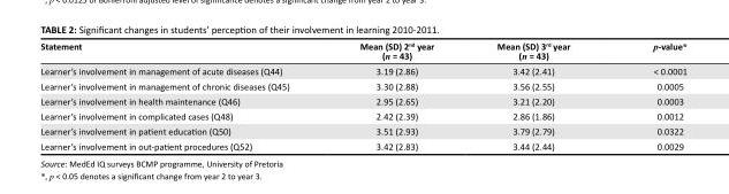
<table><thead><tr><td>Statement</td><td>Mean (SD) 2<sup>nd</sup> year (n = 43)</td><td>Mean (SD) 3<sup>rd</sup> year (n = 43)</td><td>p-value*</td></tr></thead><tbody><tr><td>Learner’s involvement in management of acute diseases (Q44)</td><td>3.19 (2.86)</td><td>3.42 (2.41)</td><td>&lt; 0.0001</td></tr><tr><td>Learner’s involvement in management of chronic diseases (Q45)</td><td>3.30 (2.88)</td><td>3.56 (2.55)</td><td>0.0005</td></tr><tr><td>Learner’s involvement in health maintenance (Q46)</td><td>2.95 (2.65)</td><td>3.21 (2.20)</td><td>0.0003</td></tr><tr><td>Learner’s involvement in complicated cases (Q48)</td><td>2.42 (2.39)</td><td>2.86 (1.86)</td><td>0.0012</td></tr><tr><td>Learner’s involvement in patient education (Q50)</td><td>3.51 (2.93)</td><td>3.79 (2.79)</td><td>0.0322</td></tr><tr><td>Learner’s involvement in out-patient procedures (Q52)</td><td>3.42 (2.83)</td><td>3.44 (2.44)</td><td>0.0029</td></tr></tbody></table>